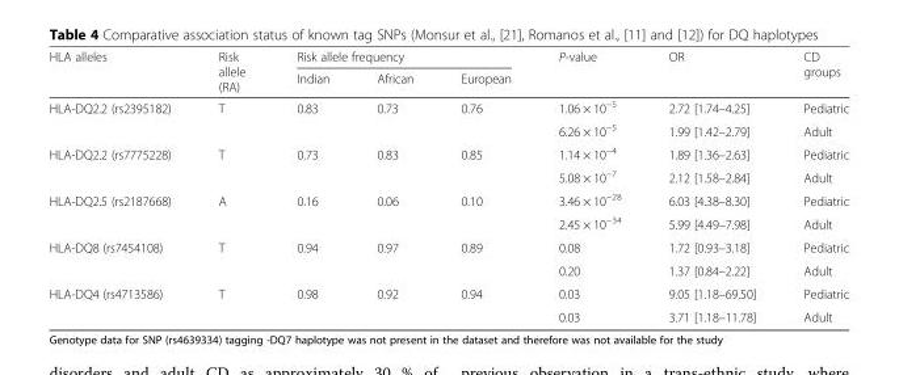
<table><thead><tr><td rowspan="2">HLA alleles</td><td rowspan="2">Risk allele (RA)</td><td colspan="3">Risk allele frequency</td><td rowspan="2">P-value</td><td rowspan="2">OR</td><td rowspan="2">CD groups</td></tr><tr><td>Indian</td><td>African</td><td>European</td></tr></thead><tbody><tr><td rowspan="2">HLA-DQ2.2 (rs2395182)</td><td rowspan="2">T</td><td rowspan="2">0.83</td><td rowspan="2">0.73</td><td rowspan="2">0.76</td><td>1.06 × 10<sup>−5</sup></td><td>2.72 [1.74–4.25]</td><td>Pediatric</td></tr><tr><td>6.26 × 10<sup>−5</sup></td><td>1.99 [1.42–2.79]</td><td>Adult</td></tr><tr><td rowspan="2">HLA-DQ2.2 (rs7775228)</td><td rowspan="2">T</td><td rowspan="2">0.73</td><td rowspan="2">0.83</td><td rowspan="2">0.85</td><td>1.14 × 10<sup>−4</sup></td><td>1.89 [1.36–2.63]</td><td>Pediatric</td></tr><tr><td>5.08 × 10<sup>−7</sup></td><td>2.12 [1.58–2.84]</td><td>Adult</td></tr><tr><td rowspan="2">HLA-DQ2.5 (rs2187668)</td><td rowspan="2">A</td><td rowspan="2">0.16</td><td rowspan="2">0.06</td><td rowspan="2">0.10</td><td>3.46 × 10<sup>−28</sup></td><td>6.03 [4.38–8.30]</td><td>Pediatric</td></tr><tr><td>2.45 × 10<sup>−34</sup></td><td>5.99 [4.49–7.98]</td><td>Adult</td></tr><tr><td rowspan="2">HLA-DQ8 (rs7454108)</td><td rowspan="2">T</td><td rowspan="2">0.94</td><td rowspan="2">0.97</td><td rowspan="2">0.89</td><td>0.08</td><td>1.72 [0.93–3.18]</td><td>Pediatric</td></tr><tr><td>0.20</td><td>1.37 [0.84–2.22]</td><td>Adult</td></tr><tr><td rowspan="2">HLA-DQ4 (rs4713586)</td><td rowspan="2">T</td><td rowspan="2">0.98</td><td rowspan="2">0.92</td><td rowspan="2">0.94</td><td>0.03</td><td>9.05 [1.18–69.50]</td><td>Pediatric</td></tr><tr><td>0.03</td><td>3.71 [1.18–11.78]</td><td>Adult</td></tr></tbody></table>